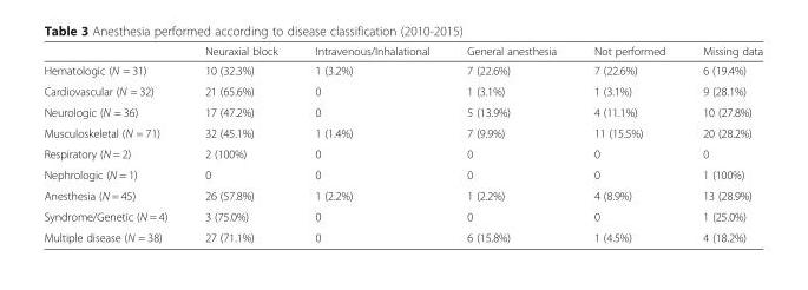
<table><thead><tr><td></td><td>Neuraxial block</td><td>Intravenous/Inhalational</td><td>General anesthesia</td><td>Not performed</td><td>Missing data</td></tr></thead><tbody><tr><td>Hematologic (N = 31)</td><td>10 (32.3%)</td><td>1 (3.2%)</td><td>7 (22.6%)</td><td>7 (22.6%)</td><td>6 (19.4%)</td></tr><tr><td>Cardiovascular (N = 32)</td><td>21 (65.6%)</td><td>0</td><td>1 (3.1%)</td><td>1 (3.1%)</td><td>9 (28.1%)</td></tr><tr><td>Neurologic (N = 36)</td><td>17 (47.2%)</td><td>0</td><td>5 (13.9%)</td><td>4 (11.1%)</td><td>10 (27.8%)</td></tr><tr><td>Musculoskeletal (N = 71)</td><td>32 (45.1%)</td><td>1 (1.4%)</td><td>7 (9.9%)</td><td>11 (15.5%)</td><td>20 (28.2%)</td></tr><tr><td>Respiratory (N = 2)</td><td>2 (100%)</td><td>0</td><td>0</td><td>0</td><td>0</td></tr><tr><td>Nephrologic (N = 1)</td><td>0</td><td>0</td><td>0</td><td>0</td><td>1 (100%)</td></tr><tr><td>Anesthesia (N = 45)</td><td>26 (57.8%)</td><td>1 (2.2%)</td><td>1 (2.2%)</td><td>4 (8.9%)</td><td>13 (28.9%)</td></tr><tr><td>Syndrome/Genetic (N = 4)</td><td>3 (75.0%)</td><td>0</td><td>0</td><td>0</td><td>1 (25.0%)</td></tr><tr><td>Multiple disease (N = 38)</td><td>27 (71.1%)</td><td>0</td><td>6 (15.8%)</td><td>1 (4.5%)</td><td>4 (18.2%)</td></tr></tbody></table>